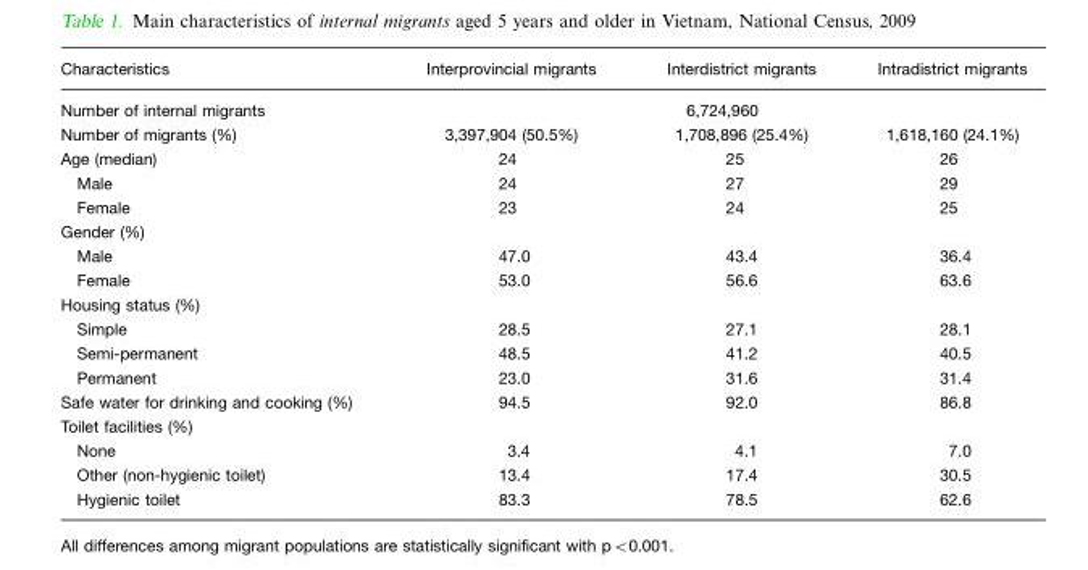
<table><thead><tr><td>Characteristics</td><td>Interprovincial migrants</td><td>Interdistrict migrants</td><td>Intradistrict migrants</td></tr></thead><tbody><tr><td>Number of internal migrants</td><td colspan="3">6,724,960</td></tr><tr><td>Number of migrants (%)</td><td>3,397,904 (50.5%)</td><td>1,708,896 (25.4%)</td><td>1,618,160 (24.1%)</td></tr><tr><td>Age (median)</td><td>24</td><td>25</td><td>26</td></tr><tr><td>Male</td><td>24</td><td>27</td><td>29</td></tr><tr><td>Female</td><td>23</td><td>24</td><td>25</td></tr><tr><td colspan="4">Gender (%)</td></tr><tr><td>Male</td><td>47.0</td><td>43.4</td><td>36.4</td></tr><tr><td>Female</td><td>53.0</td><td>56.6</td><td>63.6</td></tr><tr><td colspan="4">Housing status (%)</td></tr><tr><td>Simple</td><td>28.5</td><td>27.1</td><td>28.1</td></tr><tr><td>Semi-permanent</td><td>48.5</td><td>41.2</td><td>40.5</td></tr><tr><td>Permanent</td><td>23.0</td><td>31.6</td><td>31.4</td></tr><tr><td>Safe water for drinking and cooking (%)</td><td>94.5</td><td>92.0</td><td>86.8</td></tr><tr><td colspan="4">Toilet facilities (%)</td></tr><tr><td>None</td><td>3.4</td><td>4.1</td><td>7.0</td></tr><tr><td>Other (non-hygienic toilet)</td><td>13.4</td><td>17.4</td><td>30.5</td></tr><tr><td>Hygienic toilet</td><td>83.3</td><td>78.5</td><td>62.6</td></tr></tbody></table>